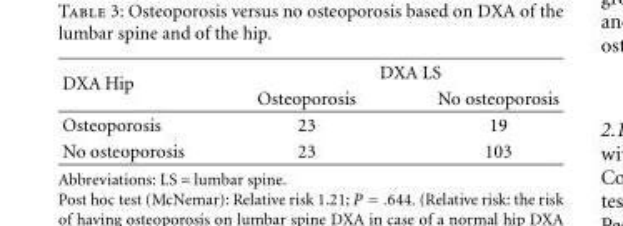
<table><thead><tr><td rowspan="2">DXA Hip</td><td colspan="2">DXA LS</td></tr><tr><td>Osteoporosis</td><td>No osteoporosis</td></tr></thead><tbody><tr><td>Osteoporosis</td><td>23</td><td>19</td></tr><tr><td>No osteoporosis</td><td>23</td><td>103</td></tr></tbody></table>